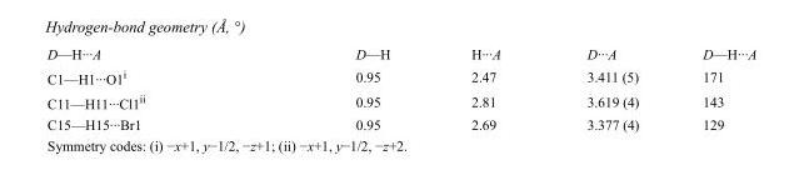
<table><tbody><tr><td>D—H···A</td><td>D—H</td><td>H···A</td><td>D···A</td><td>D—H···A</td></tr><tr><td>C1—H1···O1<sup>i</sup></td><td>0.95</td><td>2.47</td><td>3.411 (5)</td><td>171</td></tr><tr><td>C11—H11···Cl1<sup>ii</sup></td><td>0.95</td><td>2.81</td><td>3.619 (4)</td><td>143</td></tr><tr><td>C15—H15···Br1</td><td>0.95</td><td>2.69</td><td>3.377 (4)</td><td>129</td></tr></tbody></table>